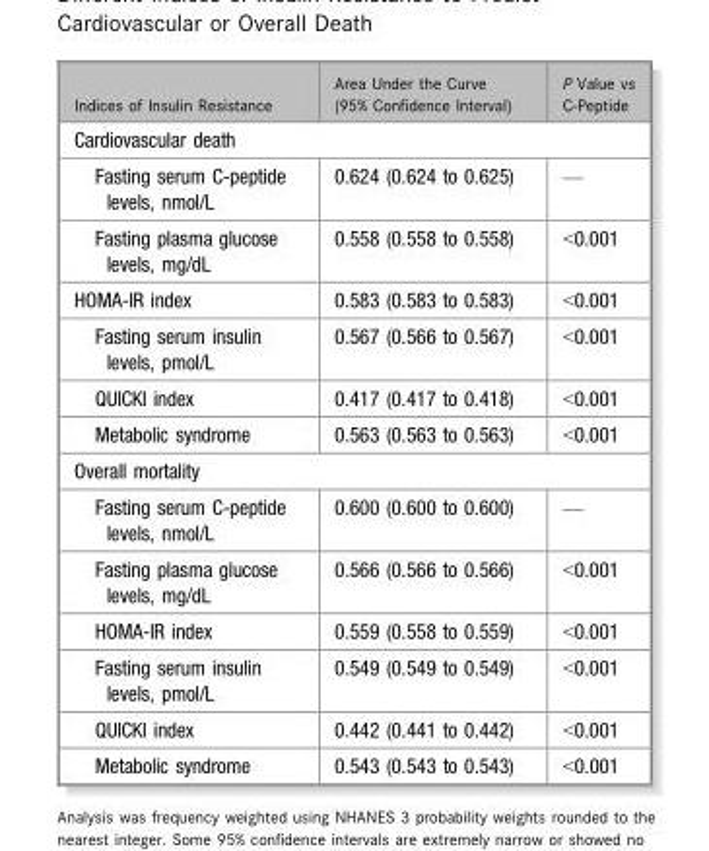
<table><thead><tr><td>Indices of Insulin Resistance</td><td>Area Under the Curve (95% Confidence Interval)</td><td>P Value vs C-Peptide</td></tr></thead><tbody><tr><td colspan="3">Cardiovascular death</td></tr><tr><td>Fasting serum C-peptide levels, nmol/L</td><td>0.624 (0.624 to 0.625)</td><td>—</td></tr><tr><td>Fasting plasma glucose levels, mg/dL</td><td>0.558 (0.558 to 0.558)</td><td>&lt;0.001</td></tr><tr><td>HOMA-IR index</td><td>0.583 (0.583 to 0.583)</td><td>&lt;0.001</td></tr><tr><td>Fasting serum insulin levels, pmol/L</td><td>0.567 (0.566 to 0.567)</td><td>&lt;0.001</td></tr><tr><td>QUICKI index</td><td>0.417 (0.417 to 0.418)</td><td>&lt;0.001</td></tr><tr><td>Metabolic syndrome</td><td>0.563 (0.563 to 0.563)</td><td>&lt;0.001</td></tr><tr><td colspan="3">Overall mortality</td></tr><tr><td>Fasting serum C-peptide levels, nmol/L</td><td>0.600 (0.600 to 0.600)</td><td>—</td></tr><tr><td>Fasting plasma glucose levels, mg/dL</td><td>0.566 (0.566 to 0.566)</td><td>&lt;0.001</td></tr><tr><td>HOMA-IR index</td><td>0.559 (0.558 to 0.559)</td><td>&lt;0.001</td></tr><tr><td>Fasting serum insulin levels, pmol/L</td><td>0.549 (0.549 to 0.549)</td><td>&lt;0.001</td></tr><tr><td>QUICKI index</td><td>0.442 (0.441 to 0.442)</td><td>&lt;0.001</td></tr><tr><td>Metabolic syndrome</td><td>0.543 (0.543 to 0.543)</td><td>&lt;0.001</td></tr></tbody></table>